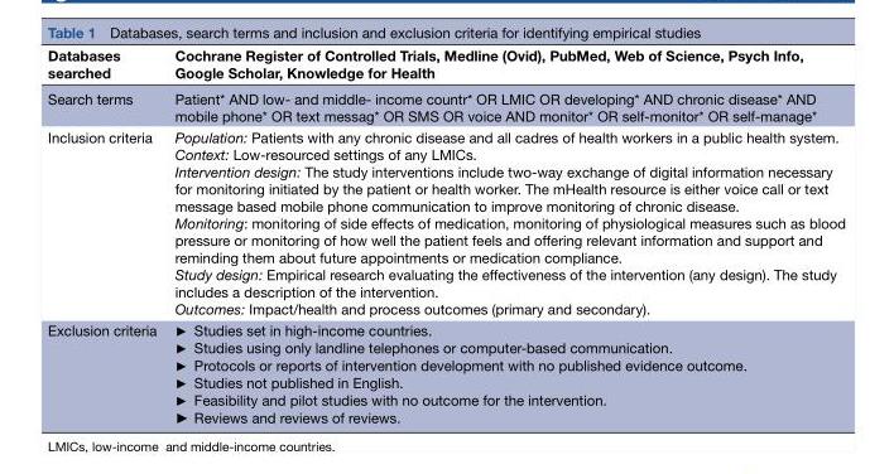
<table><thead><tr><td>Databases searched</td><td>Cochrane Register of Controlled Trials, Medline (Ovid), PubMed, Web of Science, Psych Info, Google Scholar, Knowledge for Health</td></tr></thead><tbody><tr><td>Search terms</td><td>Patient* AND low- and middle- income countr* OR LMIC OR developing* AND chronic disease* AND mobile phone* OR text messag* OR SMS OR voice AND monitor* OR self-monitor* OR self-manage*</td></tr><tr><td>Inclusion criteria</td><td>Population: Patients with any chronic disease and all cadres of health workers in a public health system. Context: Low-resourced settings of any LMICs. Intervention design: The study interventions include two-way exchange of digital information necessary for monitoring initiated by the patient or health worker. The mHealth resource is either voice call or text message based mobile phone communication to improve monitoring of chronic disease. Monitoring: monitoring of side effects of medication, monitoring of physiological measures such as blood pressure or monitoring of how well the patient feels and offering relevant information and support and reminding them about future appointments or medication compliance. Study design: Empirical research evaluating the effectiveness of the intervention (any design). The study includes a description of the intervention. Outcomes: Impact/health and process outcomes (primary and secondary).</td></tr><tr><td>Exclusion criteria</td><td>► Studies set in high-income countries. ► Studies using only landline telephones or computer-based communication. ► Protocols or reports of intervention development with no published evidence outcome. ► Studies not published in English. ► Feasibility and pilot studies with no outcome for the intervention. ► Reviews and reviews of reviews.</td></tr></tbody></table>